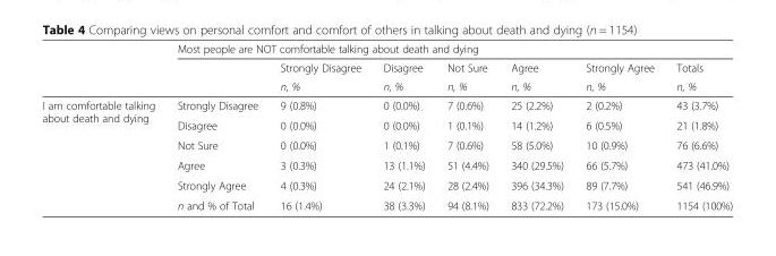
<table><thead><tr><td rowspan="3"></td><td colspan="7">Most people are NOT comfortable talking about death and dying</td></tr><tr><td rowspan="2"></td><td rowspan="2">Strongly Disagree n, %</td><td rowspan="2">Disagree n, %</td><td rowspan="2">Not Sure n, %</td><td rowspan="2">Agree n, %</td><td rowspan="2">Strongly Agree n, %</td><td rowspan="2">Totals n, %</td></tr><tr></tr></thead><tbody><tr><td rowspan="6">I am comfortable talking about death and dying</td><td>Strongly Disagree</td><td>9 (0.8%)</td><td>0 (0.0%)</td><td>7 (0.6%)</td><td>25 (2.2%)</td><td>2 (0.2%)</td><td>43 (3.7%)</td></tr><tr><td>Disagree</td><td>0 (0.0%)</td><td>0 (0.0%)</td><td>1 (0.1%)</td><td>14 (1.2%)</td><td>6 (0.5%)</td><td>21 (1.8%)</td></tr><tr><td>Not Sure</td><td>0 (0.0%)</td><td>1 (0.1%)</td><td>7 (0.6%)</td><td>58 (5.0%)</td><td>10 (0.9%)</td><td>76 (6.6%)</td></tr><tr><td>Agree</td><td>3 (0.3%)</td><td>13 (1.1%)</td><td>51 (4.4%)</td><td>340 (29.5%)</td><td>66 (5.7%)</td><td>473 (41.0%)</td></tr><tr><td>Strongly Agree</td><td>4 (0.3%)</td><td>24 (2.1%)</td><td>28 (2.4%)</td><td>396 (34.3%)</td><td>89 (7.7%)</td><td>541 (46.9%)</td></tr><tr><td>n and % of Total</td><td>16 (1.4%)</td><td>38 (3.3%)</td><td>94 (8.1%)</td><td>833 (72.2%)</td><td>173 (15.0%)</td><td>1154 (100%)</td></tr></tbody></table>